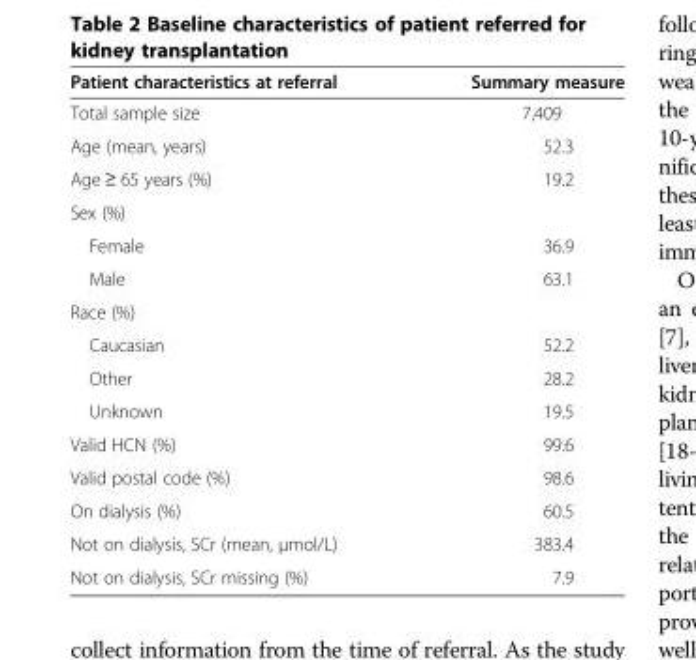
<table><thead><tr><td>Patient characteristics at referral</td><td>Summary measure</td></tr></thead><tbody><tr><td>Total sample size</td><td>7,409</td></tr><tr><td>Age (mean, years)</td><td>52.3</td></tr><tr><td>Age ≥ 65 years (%)</td><td>19.2</td></tr><tr><td colspan="2">Sex (%)</td></tr><tr><td>Female</td><td>36.9</td></tr><tr><td>Male</td><td>63.1</td></tr><tr><td colspan="2">Race (%)</td></tr><tr><td>Caucasian</td><td>52.2</td></tr><tr><td>Other</td><td>28.2</td></tr><tr><td>Unknown</td><td>19.5</td></tr><tr><td>Valid HCN (%)</td><td>99.6</td></tr><tr><td>Valid postal code (%)</td><td>98.6</td></tr><tr><td>On dialysis (%)</td><td>60.5</td></tr><tr><td>Not on dialysis, SCr (mean, μmol/L)</td><td>383.4</td></tr><tr><td>Not on dialysis, SCr missing (%)</td><td>7.9</td></tr></tbody></table>